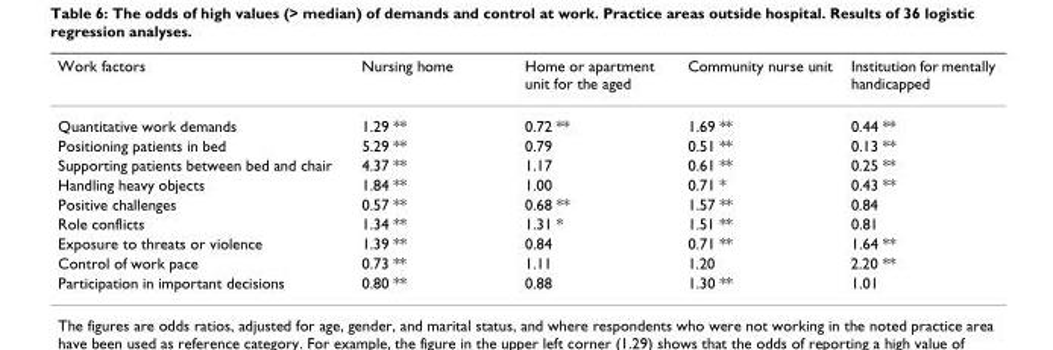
<table><thead><tr><td>Work factors</td><td>Nursing home</td><td>Home or apartment unit for the aged</td><td>Community nurse unit</td><td>Institution for mentally handicapped</td></tr></thead><tbody><tr><td>Quantitative work demands</td><td>1.29 **</td><td>0.72 **</td><td>1.69 **</td><td>0.44 **</td></tr><tr><td>Positioning patients in bed</td><td>5.29 **</td><td>0.79</td><td>0.51 **</td><td>0.13 **</td></tr><tr><td>Supporting patients between bed and chair</td><td>4.37 **</td><td>1.17</td><td>0.61 **</td><td>0.25 **</td></tr><tr><td>Handling heavy objects</td><td>1.84 **</td><td>1.00</td><td>0.71 *</td><td>0.43 **</td></tr><tr><td>Positive challenges</td><td>0.57 **</td><td>0.68 **</td><td>1.57 **</td><td>0.84</td></tr><tr><td>Role conflicts</td><td>1.34 **</td><td>1.31 *</td><td>1.51 **</td><td>0.81</td></tr><tr><td>Exposure to threats or violence</td><td>1.39 **</td><td>0.84</td><td>0.71 **</td><td>1.64 **</td></tr><tr><td>Control of work pace</td><td>0.73 **</td><td>1.11</td><td>1.20</td><td>2.20 **</td></tr><tr><td>Participation in important decisions</td><td>0.80 **</td><td>0.88</td><td>1.30 **</td><td>1.01</td></tr></tbody></table>